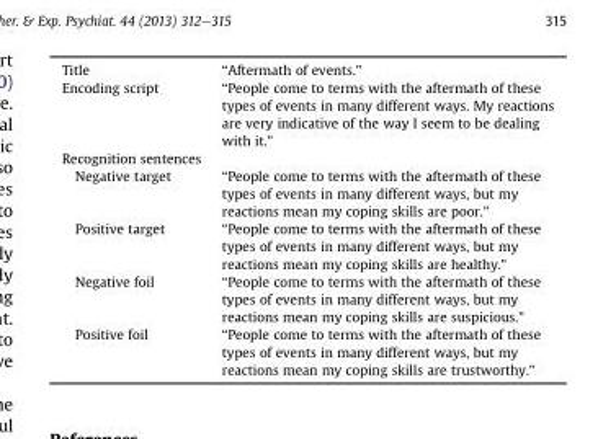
<table><tbody><tr><td>Title</td><td>“Aftermath of events.”</td></tr><tr><td>Encoding script</td><td>“People come to terms with the aftermath of these types of events in many different ways. My reactions are very indicative of the way I seem to be dealing with it.”</td></tr><tr><td colspan="2">Recognition sentences</td></tr><tr><td>Negative target</td><td>“People come to terms with the aftermath of these types of events in many different ways, but my reactions mean my coping skills are poor.”</td></tr><tr><td>Positive target</td><td>“People come to terms with the aftermath of these types of events in many different ways, but my reactions mean my coping skills are healthy.”</td></tr><tr><td>Negative foil</td><td>“People come to terms with the aftermath of these types of events in many different ways, but my reactions mean my coping skills are suspicious.”</td></tr><tr><td>Positive foil</td><td>“People come to terms with the aftermath of these types of events in many different ways, but my reactions mean my coping skills are trustworthy.”</td></tr></tbody></table>